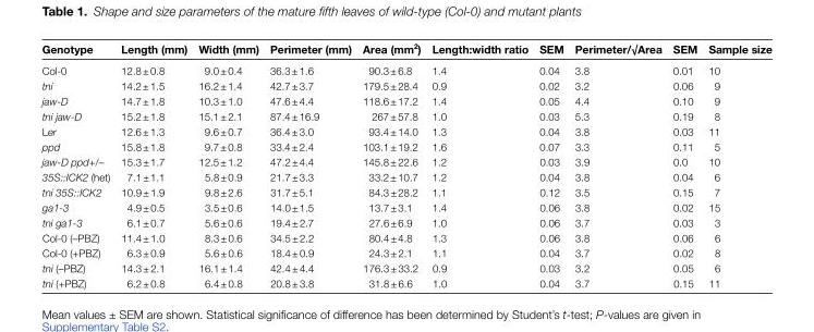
<table><thead><tr><td>Genotype</td><td>Length (mm)</td><td>Width (mm)</td><td>Perimeter (mm)</td><td>Area (mm<sup>2</sup>)</td><td>Length:width ratio</td><td>SEM</td><td>Perimeter/√Area</td><td>SEM</td><td>Sample size</td></tr></thead><tbody><tr><td>Col-0</td><td>12.8 ± 0.8</td><td>9.0 ± 0.4</td><td>36.3 ± 1.6</td><td>90.3 ± 6.8</td><td>1.4</td><td>0.04</td><td>3.8</td><td>0.01</td><td>10</td></tr><tr><td>tni</td><td>14.2 ± 1.5</td><td>16.2 ± 1.4</td><td>42.7 ± 3.7</td><td>179.5 ± 28.4</td><td>0.9</td><td>0.02</td><td>3.2</td><td>0.06</td><td>9</td></tr><tr><td>jaw-D</td><td>14.7 ± 1.8</td><td>10.3 ± 1.0</td><td>47.6 ± 4.4</td><td>118.6 ± 17.2</td><td>1.4</td><td>0.05</td><td>4.4</td><td>0.10</td><td>9</td></tr><tr><td>tni jaw-D</td><td>15.2 ± 1.8</td><td>15.1 ± 2.1</td><td>87.4 ± 16.9</td><td>267 ± 57.8</td><td>1.0</td><td>0.03</td><td>5.3</td><td>0.19</td><td>8</td></tr><tr><td>Ler</td><td>12.6 ± 1.3</td><td>9.6 ± 0.7</td><td>36.4 ± 3.0</td><td>93.4 ± 14.0</td><td>1.3</td><td>0.04</td><td>3.8</td><td>0.03</td><td>11</td></tr><tr><td>ppd</td><td>15.8 ± 1.8</td><td>9.7 ± 0.8</td><td>33.4 ± 2.4</td><td>103.1 ± 19.2</td><td>1.6</td><td>0.07</td><td>3.3</td><td>0.11</td><td>5</td></tr><tr><td>jaw-D ppd+/–</td><td>15.3 ± 1.7</td><td>12.5 ± 1.2</td><td>47.2 ± 4.4</td><td>145.8 ± 22.6</td><td>1.2</td><td>0.03</td><td>3.9</td><td>0.0</td><td>10</td></tr><tr><td>35S::ICK2 (het)</td><td>7.1 ± 1.1</td><td>5.8 ± 0.9</td><td>21.7 ± 3.3</td><td>33.2 ± 10.7</td><td>1.2</td><td>0.04</td><td>3.8</td><td>0.04</td><td>6</td></tr><tr><td>tni 35S::ICK2</td><td>10.9 ± 1.9</td><td>9.8 ± 2.6</td><td>31.7 ± 5.1</td><td>84.3 ± 28.2</td><td>1.1</td><td>0.12</td><td>3.5</td><td>0.15</td><td>7</td></tr><tr><td>ga1-3</td><td>4.9 ± 0.5</td><td>3.5 ± 0.6</td><td>14.0 ± 1.5</td><td>13.7 ± 3.1</td><td>1.4</td><td>0.06</td><td>3.8</td><td>0.02</td><td>15</td></tr><tr><td>tni ga1-3</td><td>6.1 ± 0.7</td><td>5.6 ± 0.6</td><td>19.4 ± 2.7</td><td>27.6 ± 6.9</td><td>1.0</td><td>0.06</td><td>3.7</td><td>0.03</td><td>3</td></tr><tr><td>Col-0 (–PBZ)</td><td>11.4 ± 1.0</td><td>8.3 ± 0.6</td><td>34.5 ± 2.2</td><td>80.4 ± 4.8</td><td>1.3</td><td>0.06</td><td>3.8</td><td>0.06</td><td>6</td></tr><tr><td>Col-0 (+PBZ)</td><td>6.3 ± 0.9</td><td>5.6 ± 0.6</td><td>18.4 ± 0.9</td><td>24.3 ± 2.1</td><td>1.1</td><td>0.04</td><td>3.7</td><td>0.02</td><td>8</td></tr><tr><td>tni (–PBZ)</td><td>14.3 ± 2.1</td><td>16.1 ± 1.4</td><td>42.4 ± 4.4</td><td>176.3 ± 33.2</td><td>0.9</td><td>0.03</td><td>3.2</td><td>0.05</td><td>6</td></tr><tr><td>tni (+PBZ)</td><td>6.2 ± 0.8</td><td>6.4 ± 0.8</td><td>20.8 ± 3.8</td><td>31.8 ± 6.6</td><td>1.0</td><td>0.04</td><td>3.7</td><td>0.15</td><td>11</td></tr></tbody></table>